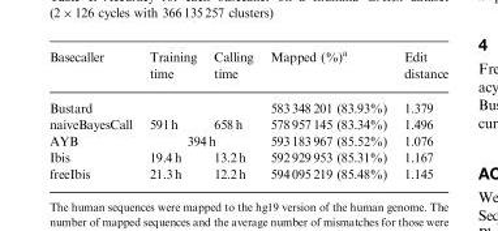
<table><thead><tr><td>Basecaller</td><td>Training time</td><td>Calling time</td><td>Mapped (%)<sup>a</sup></td><td>Edit distance</td></tr></thead><tbody><tr><td>Bustard</td><td></td><td></td><td>583348 201 (83.93%)</td><td>1.379</td></tr><tr><td>naiveBayesCall</td><td>591h</td><td>658 h</td><td>578957 145 (83.34%)</td><td>1.496</td></tr><tr><td>AYB</td><td colspan="2">394 h</td><td>593183 967 (85.52%)</td><td>1.076</td></tr><tr><td>Ibis</td><td>19.4 h</td><td>13.2h</td><td>592929 953 (85.31%)</td><td>1.167</td></tr><tr><td>freeIbis</td><td>21.3 h</td><td>12.2h</td><td>594095 219 (85.48%)</td><td>1.145</td></tr></tbody></table>